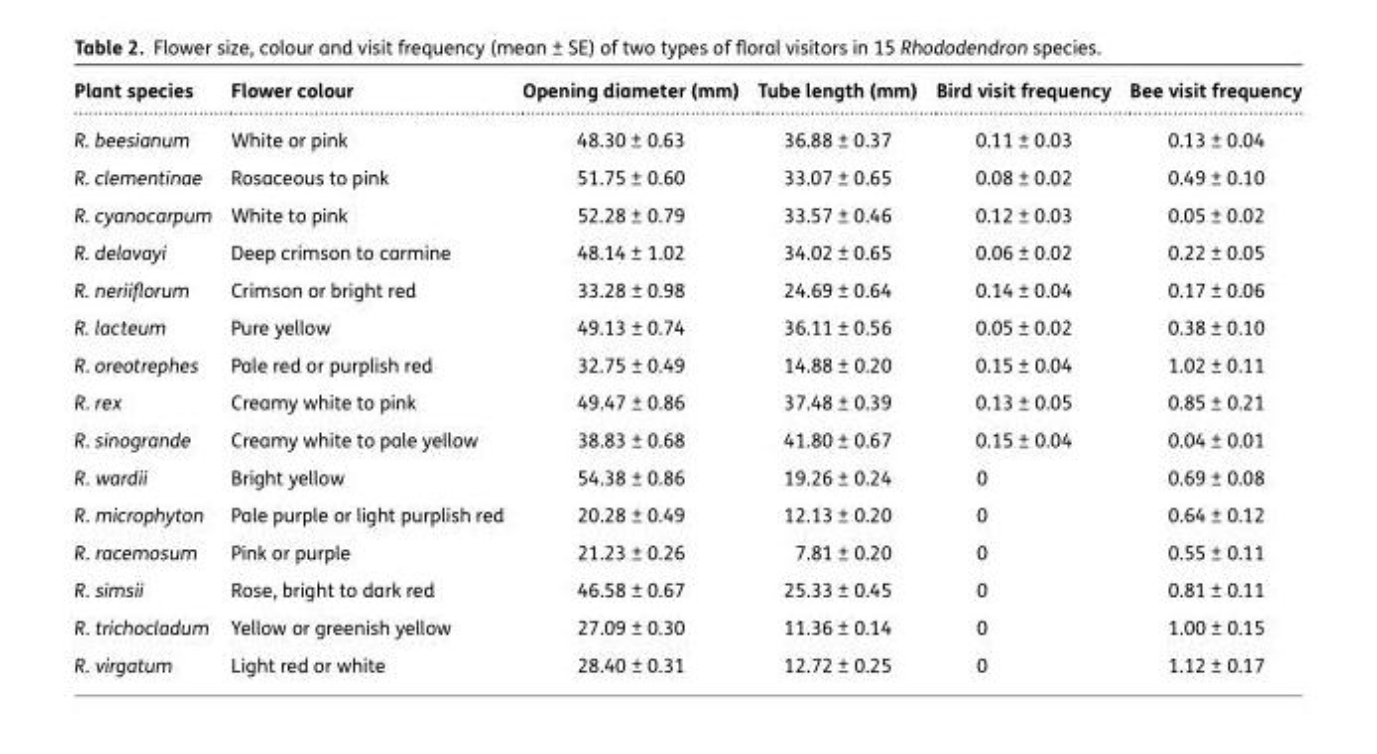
<table><thead><tr><td>Plant species</td><td>Flower colour</td><td>Opening diameter (mm)</td><td>Tube length (mm)</td><td>Bird visit frequency</td><td>Bee visit frequency</td></tr></thead><tbody><tr><td>R. beesianum</td><td>White or pink</td><td>48.30 ± 0.63</td><td>36.88 ± 0.37</td><td>0.11 ± 0.03</td><td>0.13 ± 0.04</td></tr><tr><td>R. clementinae</td><td>Rosaceous to pink</td><td>51.75 ± 0.60</td><td>33.07 ± 0.65</td><td>0.08 ± 0.02</td><td>0.49 ± 0.10</td></tr><tr><td>R. cyanocarpum</td><td>White to pink</td><td>52.28 ± 0.79</td><td>33.57 ± 0.46</td><td>0.12 ± 0.03</td><td>0.05 ± 0.02</td></tr><tr><td>R. delavayi</td><td>Deep crimson to carmine</td><td>48.14 ± 1.02</td><td>34.02 ± 0.65</td><td>0.06 ± 0.02</td><td>0.22 ± 0.05</td></tr><tr><td>R. neriiflorum</td><td>Crimson or bright red</td><td>33.28 ± 0.98</td><td>24.69 ± 0.64</td><td>0.14 ± 0.04</td><td>0.17 ± 0.06</td></tr><tr><td>R. lacteum</td><td>Pure yellow</td><td>49.13 ± 0.74</td><td>36.11 ± 0.56</td><td>0.05 ± 0.02</td><td>0.38 ± 0.10</td></tr><tr><td>R. oreotrephes</td><td>Pale red or purplish red</td><td>32.75 ± 0.49</td><td>14.88 ± 0.20</td><td>0.15 ± 0.04</td><td>1.02 ± 0.11</td></tr><tr><td>R. rex</td><td>Creamy white to pink</td><td>49.47 ± 0.86</td><td>37.48 ± 0.39</td><td>0.13 ± 0.05</td><td>0.85 ± 0.21</td></tr><tr><td>R. sinogrande</td><td>Creamy white to pale yellow</td><td>38.83 ± 0.68</td><td>41.80 ± 0.67</td><td>0.15 ± 0.04</td><td>0.04 ± 0.01</td></tr><tr><td>R. wardii</td><td>Bright yellow</td><td>54.38 ± 0.86</td><td>19.26 ± 0.24</td><td>0</td><td>0.69 ± 0.08</td></tr><tr><td>R. microphyton</td><td>Pale purple or light purplish red</td><td>20.28 ± 0.49</td><td>12.13 ± 0.20</td><td>0</td><td>0.64 ± 0.12</td></tr><tr><td>R. racemosum</td><td>Pink or purple</td><td>21.23 ± 0.26</td><td>7.81 ± 0.20</td><td>0</td><td>0.55 ± 0.11</td></tr><tr><td>R. simsii</td><td>Rose, bright to dark red</td><td>46.58 ± 0.67</td><td>25.33 ± 0.45</td><td>0</td><td>0.81 ± 0.11</td></tr><tr><td>R. trichocladum</td><td>Yellow or greenish yellow</td><td>27.09 ± 0.30</td><td>11.36 ± 0.14</td><td>0</td><td>1.00 ± 0.15</td></tr><tr><td>R. virgatum</td><td>Light red or white</td><td>28.40 ± 0.31</td><td>12.72 ± 0.25</td><td>0</td><td>1.12 ± 0.17</td></tr></tbody></table>